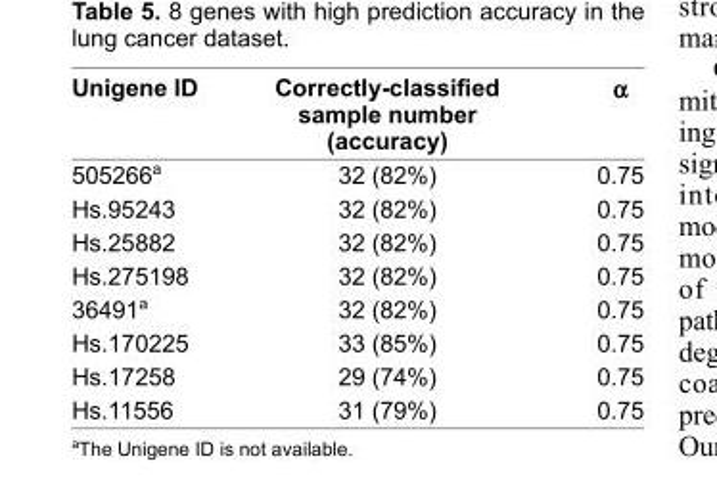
<table><thead><tr><td>Unigene ID</td><td>Correctly-classifi ed sample number (accuracy)</td><td>α</td></tr></thead><tbody><tr><td>505266<sup>a</sup></td><td>32 (82%)</td><td>0.75</td></tr><tr><td>Hs.95243</td><td>32 (82%)</td><td>0.75</td></tr><tr><td>Hs.25882</td><td>32 (82%)</td><td>0.75</td></tr><tr><td>Hs.275198</td><td>32 (82%)</td><td>0.75</td></tr><tr><td>36491<sup>a</sup></td><td>32 (82%)</td><td>0.75</td></tr><tr><td>Hs.170225</td><td>33 (85%)</td><td>0.75</td></tr><tr><td>Hs.17258</td><td>29 (74%)</td><td>0.75</td></tr><tr><td>Hs.11556</td><td>31 (79%)</td><td>0.75</td></tr></tbody></table>